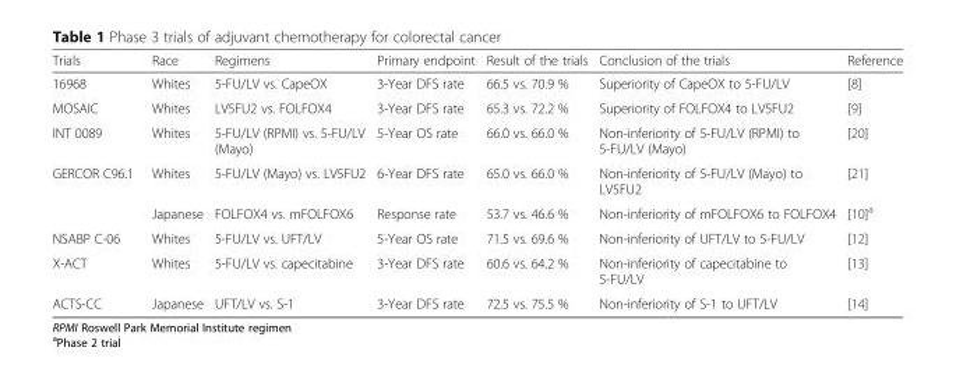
<table><thead><tr><td>Trials</td><td>Race</td><td>Regimens</td><td>Primary endpoint</td><td>Result of the trials</td><td>Conclusion of the trials</td><td>Reference</td></tr></thead><tbody><tr><td>16968</td><td>Whites</td><td>5-FU/LV vs. CapeOX</td><td>3-Year DFS rate</td><td>66.5 vs. 70.9 %</td><td>Superiority of CapeOX to 5-FU/LV</td><td>[8]</td></tr><tr><td>MOSAIC</td><td>Whites</td><td>LV5FU2 vs. FOLFOX4</td><td>3-Year DFS rate</td><td>65.3 vs. 72.2 %</td><td>Superiority of FOLFOX4 to LV5FU2</td><td>[9]</td></tr><tr><td>INT 0089</td><td>Whites</td><td>5-FU/LV (RPMI) vs. 5-FU/LV (Mayo)</td><td>5-Year OS rate</td><td>66.0 vs. 66.0 %</td><td>Non-inferiority of 5-FU/LV (RPMI) to 5-FU/LV (Mayo)</td><td>[20]</td></tr><tr><td rowspan="2">GERCOR C96.1</td><td>Whites</td><td>5-FU/LV (Mayo) vs. LV5FU2</td><td>6-Year DFS rate</td><td>65.0 vs. 66.0 %</td><td>Non-inferiority of 5-FU/LV (Mayo) to LV5FU2</td><td>[21]</td></tr><tr><td>Japanese</td><td>FOLFOX4 vs. mFOLFOX6</td><td>Response rate</td><td>53.7 vs. 46.6 %</td><td>Non-inferiority of mFOLFOX6 to FOLFOX4</td><td>[10]<sup>a</sup></td></tr><tr><td>NSABP C-06</td><td>Whites</td><td>5-FU/LV vs. UFT/LV</td><td>5-Year OS rate</td><td>71.5 vs. 69.6 %</td><td>Non-inferiority of UFT/LV to 5-FU/LV</td><td>[12]</td></tr><tr><td>X-ACT</td><td>Whites</td><td>5-FU/LV vs. capecitabine</td><td>3-Year DFS rate</td><td>60.6 vs. 64.2 %</td><td>Non-inferiority of capecitabine to 5-FU/LV</td><td>[13]</td></tr><tr><td>ACTS-CC</td><td>Japanese</td><td>UFT/LV vs. S-1</td><td>3-Year DFS rate</td><td>72.5 vs. 75.5 %</td><td>Non-inferiority of S-1 to UFT/LV</td><td>[14]</td></tr></tbody></table>